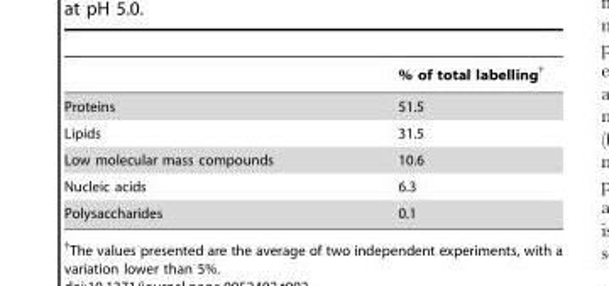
<table><thead><tr><td></td><td>% of total labelling†</td></tr></thead><tbody><tr><td>Proteins</td><td>51.5</td></tr><tr><td>Lipids</td><td>31.5</td></tr><tr><td>Low molecular mass compounds</td><td>10.6</td></tr><tr><td>Nucleic acids</td><td>6.3</td></tr><tr><td>Polysaccharides</td><td>0.1</td></tr></tbody></table>